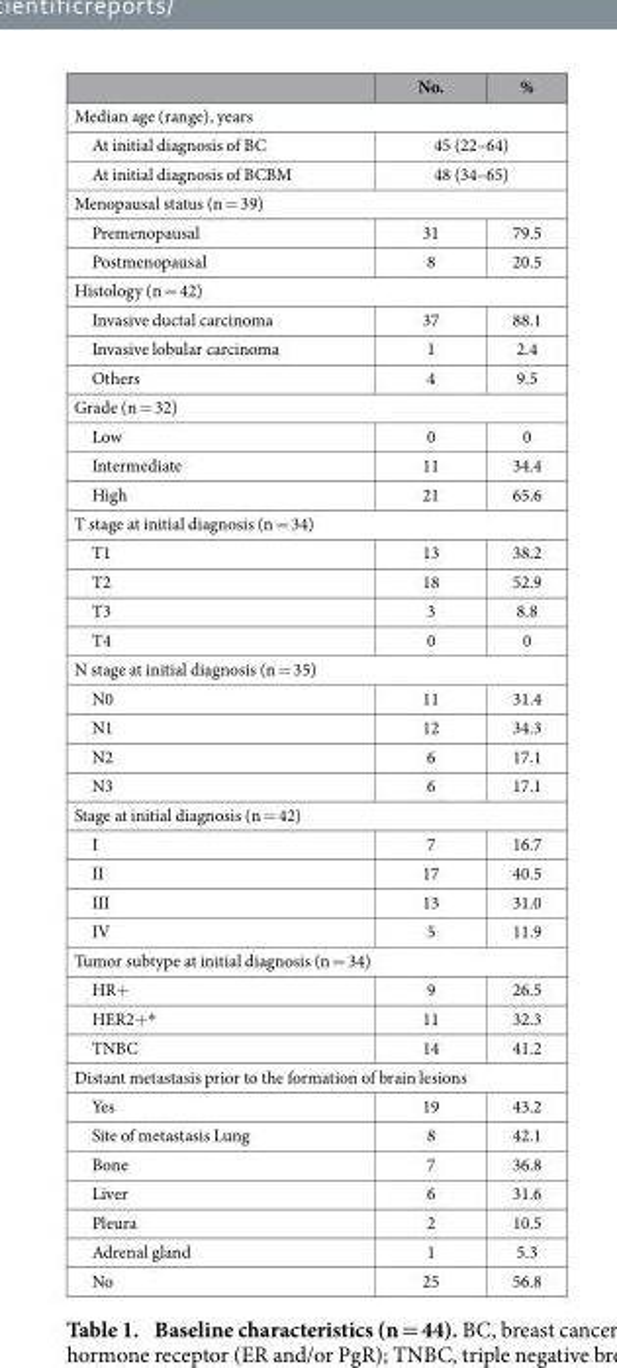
<table><thead><tr><td></td><td>No.</td><td>%</td></tr></thead><tbody><tr><td colspan="3">Median age (range), years</td></tr><tr><td>At initial diagnosis of BC</td><td colspan="2">45 (22–64)</td></tr><tr><td>At initial diagnosis of BCBM</td><td colspan="2">48 (34–65)</td></tr><tr><td colspan="3">Menopausal status (n = 39)</td></tr><tr><td>Premenopausal</td><td>31</td><td>79.5</td></tr><tr><td>Postmenopausal</td><td>8</td><td>20.5</td></tr><tr><td colspan="3">Histology (n = 42)</td></tr><tr><td>Invasive ductal carcinoma</td><td>37</td><td>88.1</td></tr><tr><td>Invasive lobular carcinoma</td><td>1</td><td>2.4</td></tr><tr><td>Others</td><td>4</td><td>9.5</td></tr><tr><td colspan="3">Grade (n = 32)</td></tr><tr><td>Low</td><td>0</td><td>0</td></tr><tr><td>Intermediate</td><td>11</td><td>34.4</td></tr><tr><td>High</td><td>21</td><td>65.6</td></tr><tr><td colspan="3">T stage at initial diagnosis (n = 34)</td></tr><tr><td>T1</td><td>13</td><td>38.2</td></tr><tr><td>T2</td><td>18</td><td>52.9</td></tr><tr><td>T3</td><td>3</td><td>8.8</td></tr><tr><td>T4</td><td>0</td><td>0</td></tr><tr><td colspan="3">N stage at initial diagnosis (n = 35)</td></tr><tr><td>N0</td><td>11</td><td>31.4</td></tr><tr><td>N1</td><td>12</td><td>34.3</td></tr><tr><td>N2</td><td>6</td><td>17.1</td></tr><tr><td>N3</td><td>6</td><td>17.1</td></tr><tr><td colspan="3">Stage at initial diagnosis (n = 42)</td></tr><tr><td>I</td><td>7</td><td>16.7</td></tr><tr><td>II</td><td>17</td><td>40.5</td></tr><tr><td>III</td><td>13</td><td>31.0</td></tr><tr><td>IV</td><td>5</td><td>11.9</td></tr><tr><td colspan="3">Tumor subtype at initial diagnosis (n = 34)</td></tr><tr><td>HR+</td><td>9</td><td>26.5</td></tr><tr><td>HER2+ *</td><td>11</td><td>32.3</td></tr><tr><td>TNBC</td><td>14</td><td>41.2</td></tr><tr><td colspan="3">Distant metastasis prior to the formation of brain lesions</td></tr><tr><td>Yes</td><td>19</td><td>43.2</td></tr><tr><td>Site of metastasis Lung</td><td>8</td><td>42.1</td></tr><tr><td>Bone</td><td>7</td><td>36.8</td></tr><tr><td>Liver</td><td>6</td><td>31.6</td></tr><tr><td>Pleura</td><td>2</td><td>10.5</td></tr><tr><td>Adrenal gland</td><td>1</td><td>5.3</td></tr><tr><td>No</td><td>25</td><td>56.8</td></tr></tbody></table>